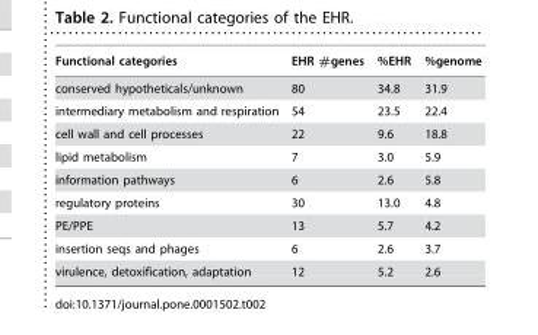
<table><thead><tr><td>Functional categories</td><td>EHR #genes</td><td>%EHR</td><td>%genome</td></tr></thead><tbody><tr><td>conserved hypotheticals/unknown</td><td>80</td><td>34.8</td><td>31.9</td></tr><tr><td>intermediary metabolism and respiration</td><td>54</td><td>23.5</td><td>22.4</td></tr><tr><td>cell wall and cell processes</td><td>22</td><td>9.6</td><td>18.8</td></tr><tr><td>lipid metabolism</td><td>7</td><td>3.0</td><td>5.9</td></tr><tr><td>information pathways</td><td>6</td><td>2.6</td><td>5.8</td></tr><tr><td>regulatory proteins</td><td>30</td><td>13.0</td><td>4.8</td></tr><tr><td>PE/PPE</td><td>13</td><td>5.7</td><td>4.2</td></tr><tr><td>insertion seqs and phages</td><td>6</td><td>2.6</td><td>3.7</td></tr><tr><td>virulence, detoxification, adaptation</td><td>12</td><td>5.2</td><td>2.6</td></tr></tbody></table>